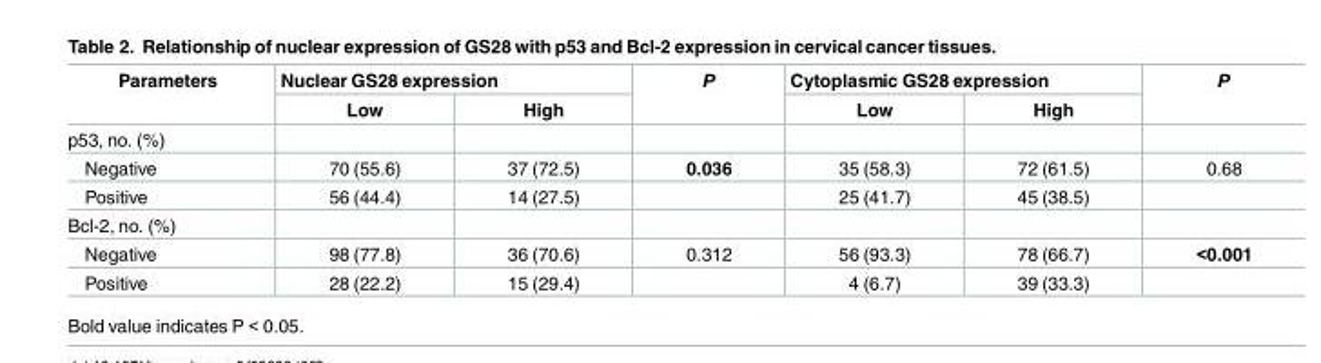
<table><thead><tr><td rowspan="2">Parameters</td><td colspan="2">Nuclear GS28 expression</td><td rowspan="2">P</td><td colspan="2">Cytoplasmic GS28 expression</td><td rowspan="2">P</td></tr><tr><td>Low</td><td>High</td><td>Low</td><td>High</td></tr></thead><tbody><tr><td colspan="7">p53, no. (%)</td></tr><tr><td>Negative</td><td>70 (55.6)</td><td>37 (72.5)</td><td>0.036</td><td>35 (58.3)</td><td>72 (61.5)</td><td>0.68</td></tr><tr><td>Positive</td><td>56 (44.4)</td><td>14 (27.5)</td><td></td><td>25 (41.7)</td><td>45 (38.5)</td><td></td></tr><tr><td colspan="7">Bcl-2, no. (%)</td></tr><tr><td>Negative</td><td>98 (77.8)</td><td>36 (70.6)</td><td>0.312</td><td>56 (93.3)</td><td>78 (66.7)</td><td>&lt;0.001</td></tr><tr><td>Positive</td><td>28 (22.2)</td><td>15 (29.4)</td><td></td><td>4 (6.7)</td><td>39 (33.3)</td><td></td></tr></tbody></table>